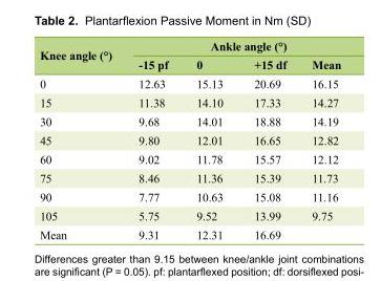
<table><thead><tr><td rowspan="2">Knee angle (°)</td><td colspan="4">Ankle angle (°)</td></tr><tr><td>-15 pf</td><td>0</td><td>+15 df</td><td>Mean</td></tr></thead><tbody><tr><td>0</td><td>12.63</td><td>15.13</td><td>20.69</td><td>16.15</td></tr><tr><td>15</td><td>11.38</td><td>14.10</td><td>17.33</td><td>14.27</td></tr><tr><td>30</td><td>9.68</td><td>14.01</td><td>18.88</td><td>14.19</td></tr><tr><td>45</td><td>9.80</td><td>12.01</td><td>16.65</td><td>12.82</td></tr><tr><td>60</td><td>9.02</td><td>11.78</td><td>15.57</td><td>12.12</td></tr><tr><td>75</td><td>8.46</td><td>11.36</td><td>15.39</td><td>11.73</td></tr><tr><td>90</td><td>7.77</td><td>10.63</td><td>15.08</td><td>11.16</td></tr><tr><td>105</td><td>5.75</td><td>9.52</td><td>13.99</td><td>9.75</td></tr><tr><td>Mean</td><td>9.31</td><td>12.31</td><td>16.69</td><td></td></tr></tbody></table>